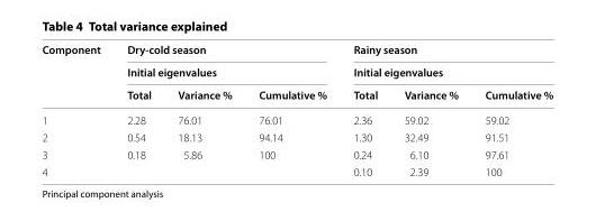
<table><thead><tr><td rowspan="3">Component</td><td rowspan="2" colspan="3">Dry-cold season Initial eigenvalues</td><td rowspan="2" colspan="3">Rainy season Initial eigenvalues</td></tr><tr></tr><tr><td>Total</td><td>Variance %</td><td>Cumulative %</td><td>Total</td><td>Variance %</td><td>Cumulative %</td></tr></thead><tbody><tr><td>1</td><td>2.28</td><td>76.01</td><td>76.01</td><td>2.36</td><td>59.02</td><td>59.02</td></tr><tr><td>2</td><td>0.54</td><td>18.13</td><td>94.14</td><td>1.30</td><td>32.49</td><td>91.51</td></tr><tr><td>3</td><td>0.18</td><td>5.86</td><td>100</td><td>0.24</td><td>6.10</td><td>97.61</td></tr><tr><td>4</td><td></td><td></td><td></td><td>0.10</td><td>2.39</td><td>100</td></tr></tbody></table>